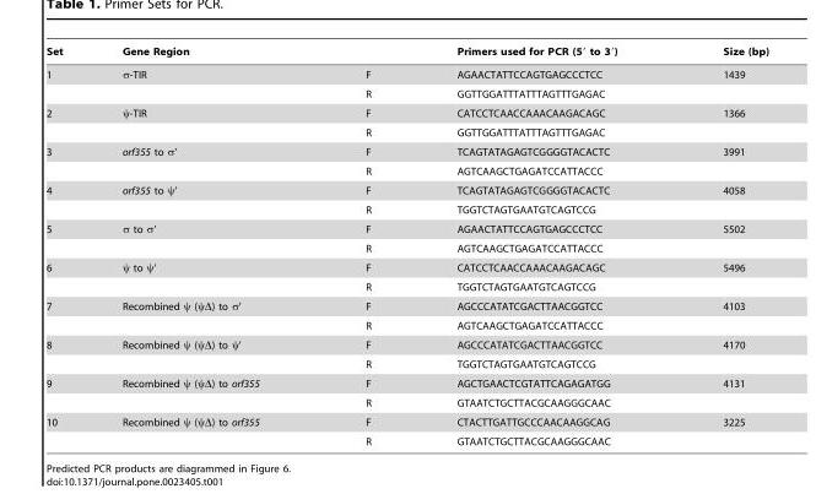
<table><thead><tr><td>Set</td><td>Gene Region</td><td></td><td>Primers used for PCR (5′ to 3′)</td><td>Size (bp)</td></tr></thead><tbody><tr><td rowspan="2">1</td><td>σ-TIR</td><td>F</td><td>AGAACTATTCCAGTGAGCCCTCC</td><td>1439</td></tr><tr><td></td><td>R</td><td>GGTTGGATTTATTTAGTTTGAGAC</td><td></td></tr><tr><td rowspan="2">2</td><td>ψ-TIR</td><td>F</td><td>CATCCTCAACCAAACAAGACAGC</td><td>1366</td></tr><tr><td></td><td>R</td><td>GGTTGGATTTATTTAGTTTGAGAC</td><td></td></tr><tr><td rowspan="2">3</td><td>orf355 to σ’</td><td>F</td><td>TCAGTATAGAGTCGGGGTACACTC</td><td>3991</td></tr><tr><td></td><td>R</td><td>AGTCAAGCTGAGATCCATTACCC</td><td></td></tr><tr><td rowspan="2">4</td><td>orf355 to ψ’</td><td>F</td><td>TCAGTATAGAGTCGGGGTACACTC</td><td>4058</td></tr><tr><td></td><td>R</td><td>TGGTCTAGTGAATGTCAGTCCG</td><td></td></tr><tr><td rowspan="2">5</td><td>σ to σ’</td><td>F</td><td>AGAACTATTCCAGTGAGCCCTCC</td><td>5502</td></tr><tr><td></td><td>R</td><td>AGTCAAGCTGAGATCCATTACCC</td><td></td></tr><tr><td rowspan="2">6</td><td>ψ to ψ’</td><td>F</td><td>CATCCTCAACCAAACAAGACAGC</td><td>5496</td></tr><tr><td></td><td>R</td><td>TGGTCTAGTGAATGTCAGTCCG</td><td></td></tr><tr><td rowspan="2">7</td><td>Recombined ψ (ψΔ) to σ’</td><td>F</td><td>AGCCCATATCGACTTAACGGTCC</td><td>4103</td></tr><tr><td></td><td>R</td><td>AGTCAAGCTGAGATCCATTACCC</td><td></td></tr><tr><td rowspan="2">8</td><td>Recombined ψ (ψΔ) to ψ’</td><td>F</td><td>AGCCCATATCGACTTAACGGTCC</td><td>4170</td></tr><tr><td></td><td>R</td><td>TGGTCTAGTGAATGTCAGTCCG</td><td></td></tr><tr><td rowspan="2">9</td><td>Recombined ψ (ψΔ) to orf355</td><td>F</td><td>AGCTGAACTCGTATTCAGAGATGG</td><td>4131</td></tr><tr><td></td><td>R</td><td>GTAATCTGCTTACGCAAGGGCAAC</td><td></td></tr><tr><td rowspan="2">10</td><td>Recombined ψ (ψΔ) to orf355</td><td>F</td><td>CTACTTGATTGCCCAACAAGGCAG</td><td>3225</td></tr><tr><td></td><td>R</td><td>GTAATCTGCTTACGCAAGGGCAAC</td><td></td></tr></tbody></table>